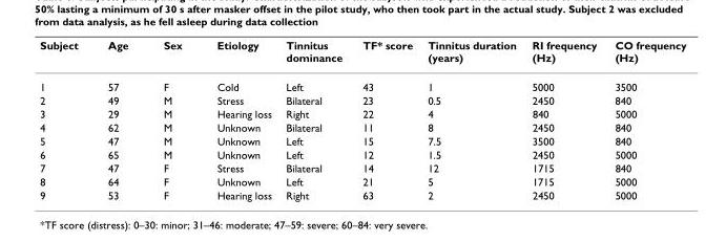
<table><thead><tr><td>Subject</td><td>Age</td><td>Sex</td><td>Etiology</td><td>Tinnitus dominance</td><td>TF* score</td><td>Tinnitus duration (years)</td><td>RI frequency (Hz)</td><td>CO frequency (Hz)</td></tr></thead><tbody><tr><td>1</td><td>57</td><td>F</td><td>Cold</td><td>Left</td><td>43</td><td>1</td><td>5000</td><td>3500</td></tr><tr><td>2</td><td>49</td><td>M</td><td>Stress</td><td>Bilateral</td><td>23</td><td>0.5</td><td>2450</td><td>840</td></tr><tr><td>3</td><td>29</td><td>M</td><td>Hearing loss</td><td>Right</td><td>22</td><td>4</td><td>840</td><td>5000</td></tr><tr><td>4</td><td>62</td><td>M</td><td>Unknown</td><td>Bilateral</td><td>11</td><td>8</td><td>2450</td><td>840</td></tr><tr><td>5</td><td>47</td><td>M</td><td>Unknown</td><td>Left</td><td>15</td><td>7.5</td><td>3500</td><td>840</td></tr><tr><td>6</td><td>65</td><td>M</td><td>Unknown</td><td>Left</td><td>12</td><td>1.5</td><td>2450</td><td>5000</td></tr><tr><td>7</td><td>47</td><td>F</td><td>Stress</td><td>Bilateral</td><td>14</td><td>12</td><td>1715</td><td>840</td></tr><tr><td>8</td><td>64</td><td>F</td><td>Unknown</td><td>Left</td><td>21</td><td>5</td><td>1715</td><td>5000</td></tr><tr><td>9</td><td>53</td><td>F</td><td>Hearing loss</td><td>Right</td><td>63</td><td>2</td><td>2450</td><td>5000</td></tr></tbody></table>